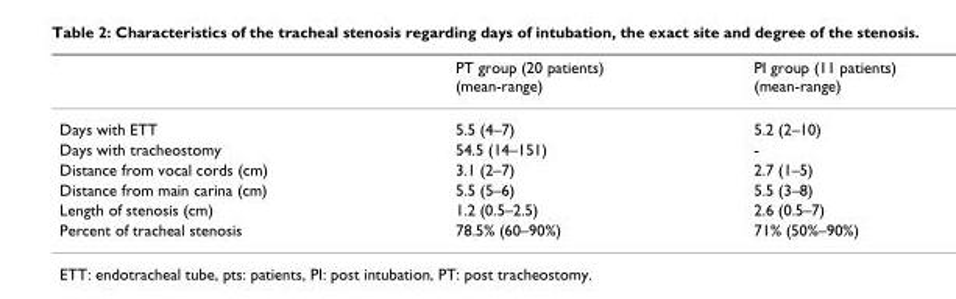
<table><thead><tr><td></td><td>PT group (20 patients) (mean-range)</td><td>PI group (11 patients) (mean-range)</td></tr></thead><tbody><tr><td>Days with ETT</td><td>5.5 (4–7)</td><td>5.2 (2–10)</td></tr><tr><td>Days with tracheostomy</td><td>54.5 (14–151)</td><td>-</td></tr><tr><td>Distance from vocal cords (cm)</td><td>3.1 (2–7)</td><td>2.7 (1–5)</td></tr><tr><td>Distance from main carina (cm)</td><td>5.5 (5–6)</td><td>5.5 (3–8)</td></tr><tr><td>Length of stenosis (cm)</td><td>1.2 (0.5–2.5)</td><td>2.6 (0.5–7)</td></tr><tr><td>Percent of tracheal stenosis</td><td>78.5% (60–90%)</td><td>71% (50%–90%)</td></tr></tbody></table>